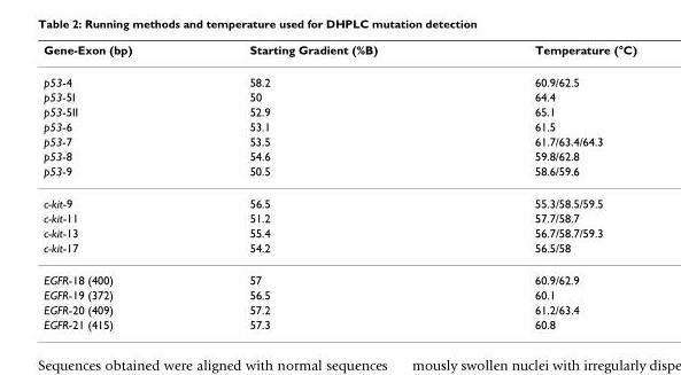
<table><thead><tr><td>Gene-Exon (bp)</td><td>Starting Gradient (%B)</td><td>Temperature (°C)</td></tr></thead><tbody><tr><td>p53-4</td><td>58.2</td><td>60.9/62.5</td></tr><tr><td>p53-5I</td><td>50</td><td>64.4</td></tr><tr><td>p53-5II</td><td>52.9</td><td>65.1</td></tr><tr><td>p53-6</td><td>53.1</td><td>61.5</td></tr><tr><td>p53-7</td><td>53.5</td><td>61.7/63.4/64.3</td></tr><tr><td>p53-8</td><td>54.6</td><td>59.8/62.8</td></tr><tr><td>p53-9</td><td>50.5</td><td>58.6/59.6</td></tr><tr><td>c-kit-9</td><td>56.5</td><td>55.3/58.5/59.5</td></tr><tr><td>c-kit-11</td><td>51.2</td><td>57.7/58.7</td></tr><tr><td>c-kit-13</td><td>55.4</td><td>56.7/58.7/59.3</td></tr><tr><td>c-kit-17</td><td>54.2</td><td>56.5/58</td></tr><tr><td>EGFR-18 (400)</td><td>57</td><td>60.9/62.9</td></tr><tr><td>EGFR-19 (372)</td><td>56.5</td><td>60.1</td></tr><tr><td>EGFR-20 (409)</td><td>57.2</td><td>61.2/63.4</td></tr><tr><td>EGFR-21 (415)</td><td>57.3</td><td>60.8</td></tr></tbody></table>